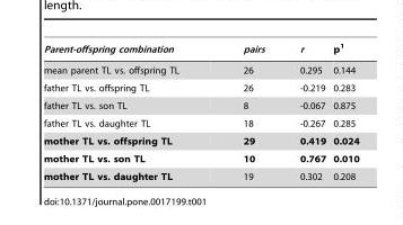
<table><thead><tr><td>Parent-offspring combination</td><td>pairs</td><td>r</td><td>p<sup>1</sup></td></tr></thead><tbody><tr><td>mean parent TL vs. offspring TL</td><td>26</td><td>0.295</td><td>0.144</td></tr><tr><td>father TL vs. offspring TL</td><td>26</td><td>-0.219</td><td>0.283</td></tr><tr><td>father TL vs. son TL</td><td>8</td><td>-0.067</td><td>0.875</td></tr><tr><td>father TL vs. daughter TL</td><td>18</td><td>-0.267</td><td>0.285</td></tr><tr><td>mother TL vs. offspring TL</td><td>29</td><td>0.419</td><td>0.024</td></tr><tr><td>mother TL vs. son TL</td><td>10</td><td>0.767</td><td>0.010</td></tr><tr><td>mother TL vs. daughter TL</td><td>19</td><td>0.302</td><td>0.208</td></tr></tbody></table>